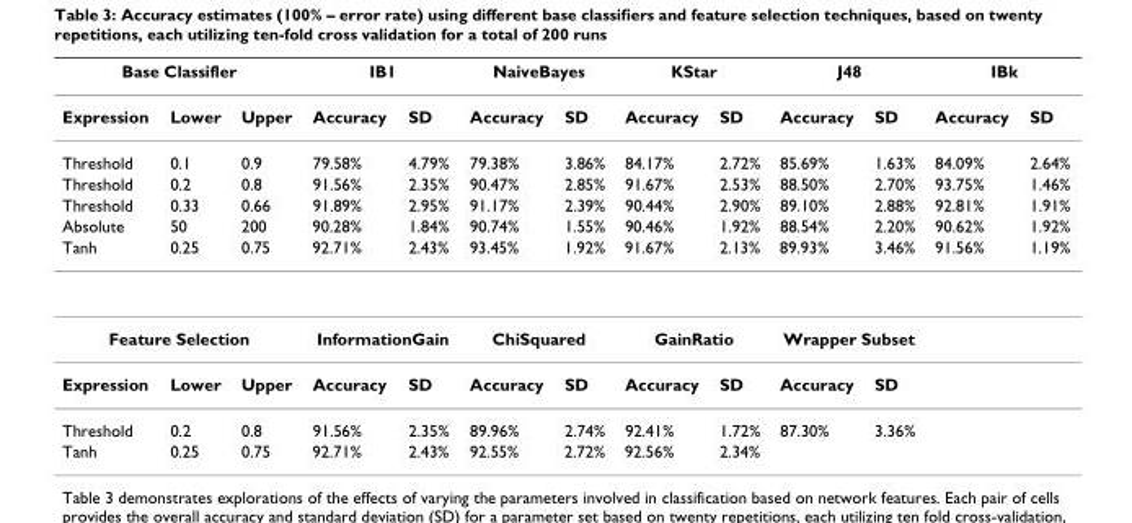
<table><thead><tr><td colspan="3">Base Classifler</td><td colspan="2">IB1</td><td colspan="2">NaiveBayes</td><td colspan="2">KStar</td><td colspan="2">J48</td><td colspan="2">IBk</td></tr><tr><td>Expression</td><td>Lower</td><td>Upper</td><td>Accuracy</td><td>SD</td><td>Accuracy</td><td>SD</td><td>Accuracy</td><td>SD</td><td>Accuracy</td><td>SD</td><td>Accuracy</td><td>SD</td></tr></thead><tbody><tr><td>Threshold</td><td>0.1</td><td>0.9</td><td>79.58%</td><td>4.79%</td><td>79.38%</td><td>3.86%</td><td>84.17%</td><td>2.72%</td><td>85.69%</td><td>1.63%</td><td>84.09%</td><td>2.64%</td></tr><tr><td>Threshold</td><td>0.2</td><td>0.8</td><td>91.56%</td><td>2.35%</td><td>90.47%</td><td>2.85%</td><td>91.67%</td><td>2.53%</td><td>88.50%</td><td>2.70%</td><td>93.75%</td><td>1.46%</td></tr><tr><td>Threshold</td><td>0.33</td><td>0.66</td><td>91.89%</td><td>2.95%</td><td>91.17%</td><td>2.39%</td><td>90.44%</td><td>2.90%</td><td>89.10%</td><td>2.88%</td><td>92.81%</td><td>1.91%</td></tr><tr><td>Absolute</td><td>50</td><td>200</td><td>90.28%</td><td>1.84%</td><td>90.74%</td><td>1.55%</td><td>90.46%</td><td>1.92%</td><td>88.54%</td><td>2.20%</td><td>90.62%</td><td>1.92%</td></tr><tr><td>Tanh</td><td>0.25</td><td>0.75</td><td>92.71%</td><td>2.43%</td><td>93.45%</td><td>1.92%</td><td>91.67%</td><td>2.13%</td><td>89.93%</td><td>3.46%</td><td>91.56%</td><td>1.19%</td></tr><tr><td colspan="3">Feature Selection</td><td colspan="2">InformationGain</td><td colspan="2">ChiSquared</td><td colspan="2">GainRatio</td><td colspan="2">Wrapper Subset</td><td></td><td></td></tr><tr><td>Expression</td><td>Lower</td><td>Upper</td><td>Accuracy</td><td>SD</td><td>Accuracy</td><td>SD</td><td>Accuracy</td><td>SD</td><td>Accuracy</td><td>SD</td><td></td><td></td></tr><tr><td>Threshold</td><td>0.2</td><td>0.8</td><td>91.56%</td><td>2.35%</td><td>89.96%</td><td>2.74%</td><td>92.41%</td><td>1.72%</td><td>87.30%</td><td>3.36%</td><td></td><td></td></tr><tr><td>Tanh</td><td>0.25</td><td>0.75</td><td>92.71%</td><td>2.43%</td><td>92.55%</td><td>2.72%</td><td>92.56%</td><td>2.34%</td><td></td><td></td><td></td><td></td></tr></tbody></table>